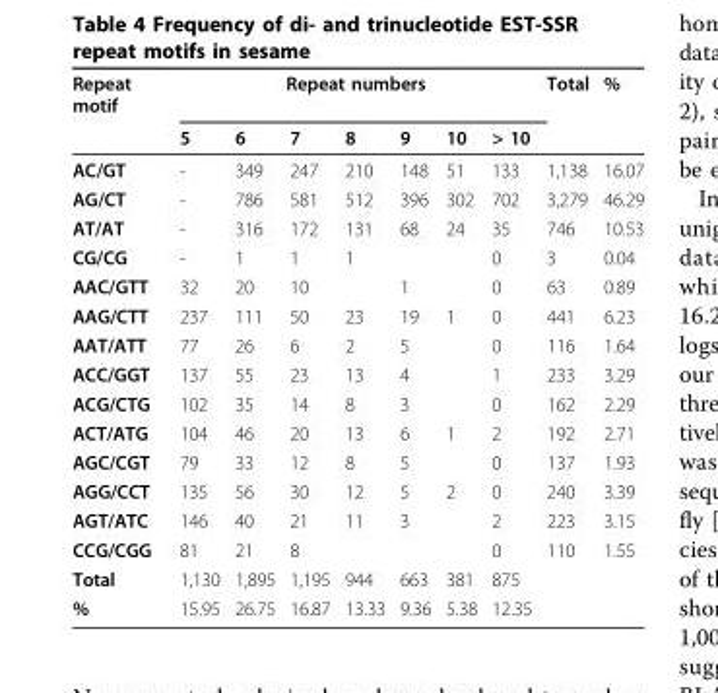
<table><thead><tr><td rowspan="2">Repeat motif</td><td colspan="7">Repeat numbers</td><td rowspan="2">Total</td><td rowspan="2">%</td></tr><tr><td>5</td><td>6</td><td>7</td><td>8</td><td>9</td><td>10</td><td>&gt; 10</td></tr></thead><tbody><tr><td>AC/GT</td><td>-</td><td>349</td><td>247</td><td>210</td><td>148</td><td>51</td><td>133</td><td>1,138</td><td>16.07</td></tr><tr><td>AG/CT</td><td>-</td><td>786</td><td>581</td><td>512</td><td>396</td><td>302</td><td>702</td><td>3,279</td><td>46.29</td></tr><tr><td>AT/AT</td><td>-</td><td>316</td><td>172</td><td>131</td><td>68</td><td>24</td><td>35</td><td>746</td><td>10.53</td></tr><tr><td>CG/CG</td><td>-</td><td>1</td><td>1</td><td>1</td><td></td><td></td><td>0</td><td>3</td><td>0.04</td></tr><tr><td>AAC/GTT</td><td>32</td><td>20</td><td>10</td><td></td><td>1</td><td></td><td>0</td><td>63</td><td>0.89</td></tr><tr><td>AAG/CTT</td><td>237</td><td>111</td><td>50</td><td>23</td><td>19</td><td>1</td><td>0</td><td>441</td><td>6.23</td></tr><tr><td>AAT/ATT</td><td>77</td><td>26</td><td>6</td><td>2</td><td>5</td><td></td><td>0</td><td>116</td><td>1.64</td></tr><tr><td>ACC/GGT</td><td>137</td><td>55</td><td>23</td><td>13</td><td>4</td><td></td><td>1</td><td>233</td><td>3.29</td></tr><tr><td>ACG/CTG</td><td>102</td><td>35</td><td>14</td><td>8</td><td>3</td><td></td><td>0</td><td>162</td><td>2.29</td></tr><tr><td>ACT/ATG</td><td>104</td><td>46</td><td>20</td><td>13</td><td>6</td><td>1</td><td>2</td><td>192</td><td>2.71</td></tr><tr><td>AGC/CGT</td><td>79</td><td>33</td><td>12</td><td>8</td><td>5</td><td></td><td>0</td><td>137</td><td>1.93</td></tr><tr><td>AGG/CCT</td><td>135</td><td>56</td><td>30</td><td>12</td><td>5</td><td>2</td><td>0</td><td>240</td><td>3.39</td></tr><tr><td>AGT/ATC</td><td>146</td><td>40</td><td>21</td><td>11</td><td>3</td><td></td><td>2</td><td>223</td><td>3.15</td></tr><tr><td>CCG/CGG</td><td>81</td><td>21</td><td>8</td><td></td><td></td><td></td><td>0</td><td>110</td><td>1.55</td></tr><tr><td>Total</td><td>1,130</td><td>1,895</td><td>1,195</td><td>944</td><td>663</td><td>381</td><td>875</td><td></td><td></td></tr><tr><td>%</td><td>15.95</td><td>26.75</td><td>16.87</td><td>13.33</td><td>9.36</td><td>5.38</td><td>12.35</td><td></td><td></td></tr></tbody></table>